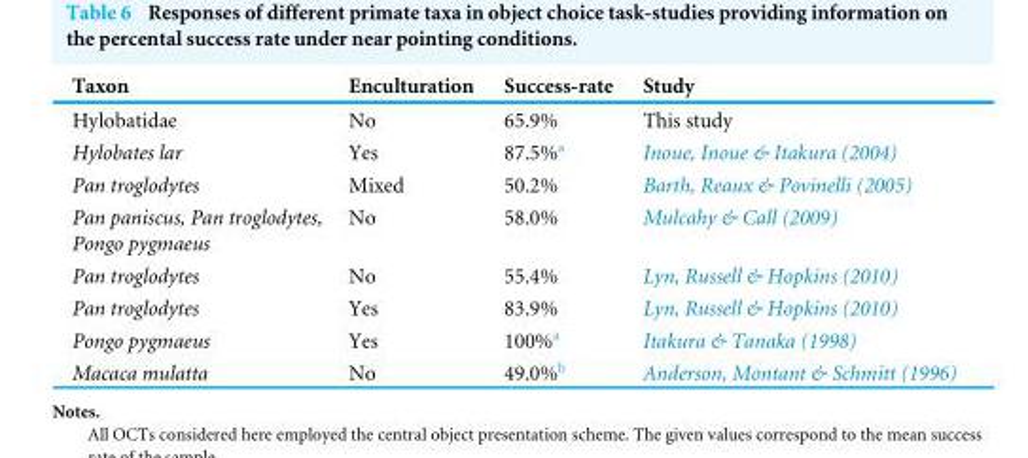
<table><thead><tr><td>Taxon</td><td>Enculturation</td><td>Success-rate</td><td>Study</td></tr></thead><tbody><tr><td>Hylobatidae</td><td>No</td><td>65.9%</td><td>This study</td></tr><tr><td>Hylobates lar</td><td>Yes</td><td>87.5%<sup>a</sup></td><td>Inoue, Inoue &amp; Itakura (2004)</td></tr><tr><td>Pan troglodytes</td><td>Mixed</td><td>50.2%</td><td>Barth, Reaux &amp; Povinelli (2005)</td></tr><tr><td>Pan paniscus, Pan troglodytes, Pongo pygmaeus</td><td>No</td><td>58.0%</td><td>Mulcahy &amp; Call (2009)</td></tr><tr><td>Pan troglodytes</td><td>No</td><td>55.4%</td><td>Lyn, Russell &amp; Hopkins (2010)</td></tr><tr><td>Pan troglodytes</td><td>Yes</td><td>83.9%</td><td>Lyn, Russell &amp; Hopkins (2010)</td></tr><tr><td>Pongo pygmaeus</td><td>Yes</td><td>100%<sup>a</sup></td><td>Itakura &amp; Tanaka (1998)</td></tr><tr><td>Macaca mulatta</td><td>No</td><td>49.0%<sup>b</sup></td><td>Anderson, Montant &amp; Schmitt (1996)</td></tr></tbody></table>